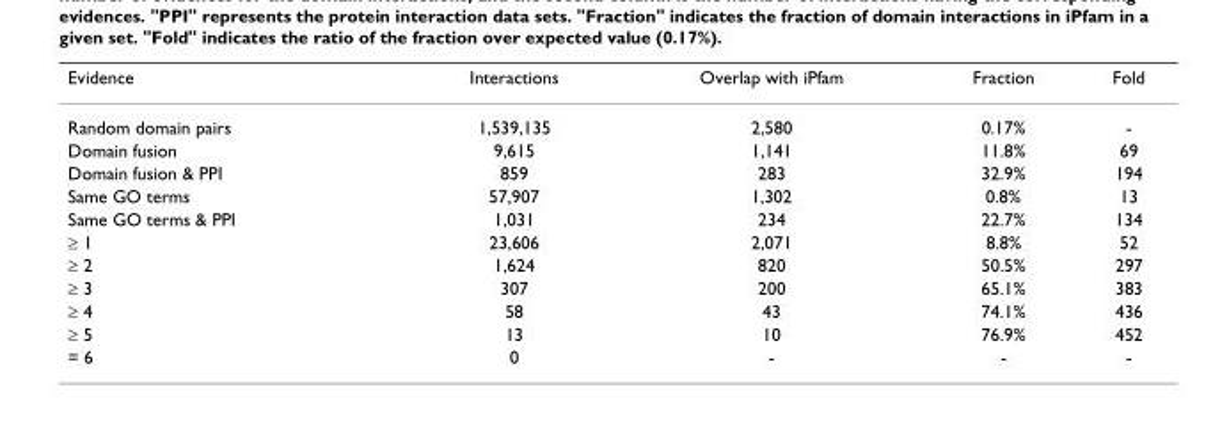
<table><thead><tr><td>Evidence</td><td>Interactions</td><td>Overlap with iPfam</td><td>Fraction</td><td>Fold</td></tr></thead><tbody><tr><td>Random domain pairs</td><td>1,539,135</td><td>2,580</td><td>0.17%</td><td>-</td></tr><tr><td>Domain fusion</td><td>9,615</td><td>1,141</td><td>11.8%</td><td>69</td></tr><tr><td>Domain fusion &amp; PPI</td><td>859</td><td>283</td><td>32.9%</td><td>194</td></tr><tr><td>Same GO terms</td><td>57,907</td><td>1,302</td><td>0.8%</td><td>13</td></tr><tr><td>Same GO terms &amp; PPI</td><td>1,031</td><td>234</td><td>22.7%</td><td>134</td></tr><tr><td>≥ 1</td><td>23,606</td><td>2,071</td><td>8.8%</td><td>52</td></tr><tr><td>≥ 2</td><td>1,624</td><td>820</td><td>50.5%</td><td>297</td></tr><tr><td>≥ 3</td><td>307</td><td>200</td><td>65.1%</td><td>383</td></tr><tr><td>≥ 4</td><td>58</td><td>43</td><td>74.1%</td><td>436</td></tr><tr><td>≥ 5</td><td>13</td><td>10</td><td>76.9%</td><td>452</td></tr><tr><td>= 6</td><td>0</td><td>-</td><td>-</td><td>-</td></tr></tbody></table>